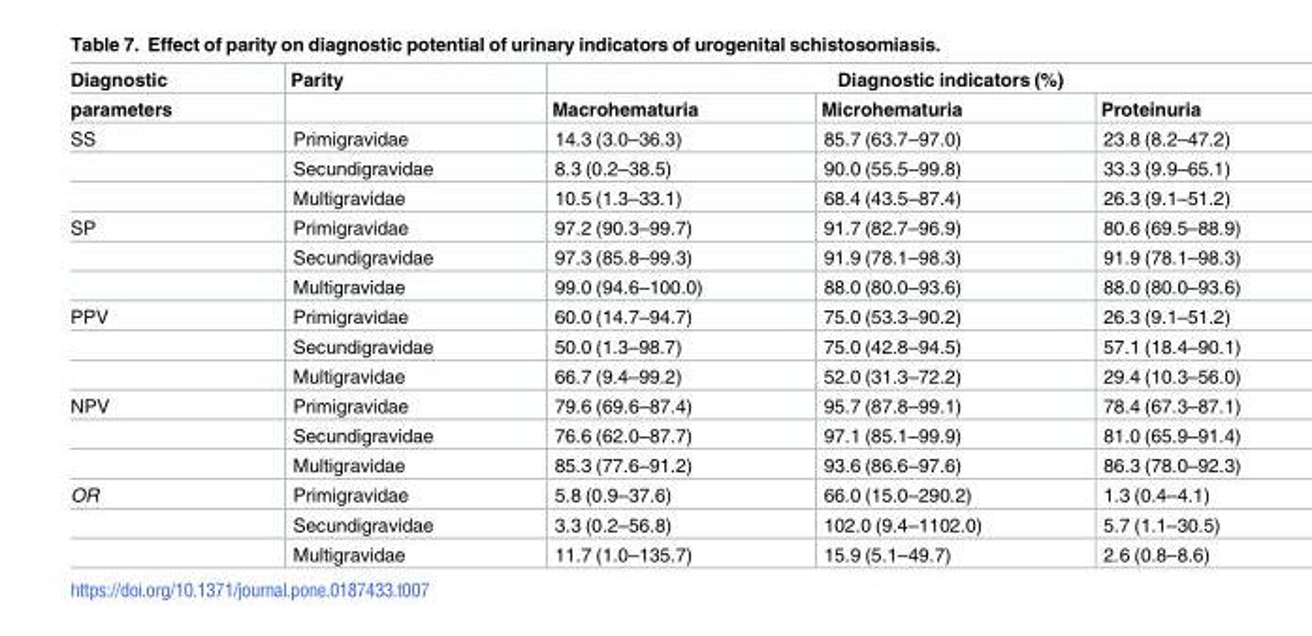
<table><thead><tr><td rowspan="2">Diagnostic parameters</td><td rowspan="2">Parity</td><td colspan="3">Diagnostic indicators (%)</td></tr><tr><td>Macrohematuria</td><td>Microhematuria</td><td>Proteinuria</td></tr></thead><tbody><tr><td rowspan="3">SS</td><td>Primigravidae</td><td>14.3 (3.0–36.3)</td><td>85.7 (63.7–97.0)</td><td>23.8 (8.2–47.2)</td></tr><tr><td>Secundigravidae</td><td>8.3 (0.2–38.5)</td><td>90.0 (55.5–99.8)</td><td>33.3 (9.9–65.1)</td></tr><tr><td>Multigravidae</td><td>10.5 (1.3–33.1)</td><td>68.4 (43.5–87.4)</td><td>26.3 (9.1–51.2)</td></tr><tr><td rowspan="3">SP</td><td>Primigravidae</td><td>97.2 (90.3–99.7)</td><td>91.7 (82.7–96.9)</td><td>80.6 (69.5–88.9)</td></tr><tr><td>Secundigravidae</td><td>97.3 (85.8–99.3)</td><td>91.9 (78.1–98.3)</td><td>91.9 (78.1–98.3)</td></tr><tr><td>Multigravidae</td><td>99.0 (94.6–100.0)</td><td>88.0 (80.0–93.6)</td><td>88.0 (80.0–93.6)</td></tr><tr><td rowspan="3">PPV</td><td>Primigravidae</td><td>60.0 (14.7–94.7)</td><td>75.0 (53.3–90.2)</td><td>26.3 (9.1–51.2)</td></tr><tr><td>Secundigravidae</td><td>50.0 (1.3–98.7)</td><td>75.0 (42.8–94.5)</td><td>57.1 (18.4–90.1)</td></tr><tr><td>Multigravidae</td><td>66.7 (9.4–99.2)</td><td>52.0 (31.3–72.2)</td><td>29.4 (10.3–56.0)</td></tr><tr><td rowspan="3">NPV</td><td>Primigravidae</td><td>79.6 (69.6–87.4)</td><td>95.7 (87.8–99.1)</td><td>78.4 (67.3–87.1)</td></tr><tr><td>Secundigravidae</td><td>76.6 (62.0–87.7)</td><td>97.1 (85.1–99.9)</td><td>81.0 (65.9–91.4)</td></tr><tr><td>Multigravidae</td><td>85.3 (77.6–91.2)</td><td>93.6 (86.6–97.6)</td><td>86.3 (78.0–92.3)</td></tr><tr><td rowspan="3">OR</td><td>Primigravidae</td><td>5.8 (0.9–37.6)</td><td>66.0 (15.0–290.2)</td><td>1.3 (0.4–4.1)</td></tr><tr><td>Secundigravidae</td><td>3.3 (0.2–56.8)</td><td>102.0 (9.4–1102.0)</td><td>5.7 (1.1–30.5)</td></tr><tr><td>Multigravidae</td><td>11.7 (1.0–135.7)</td><td>15.9 (5.1–49.7)</td><td>2.6 (0.8–8.6)</td></tr></tbody></table>